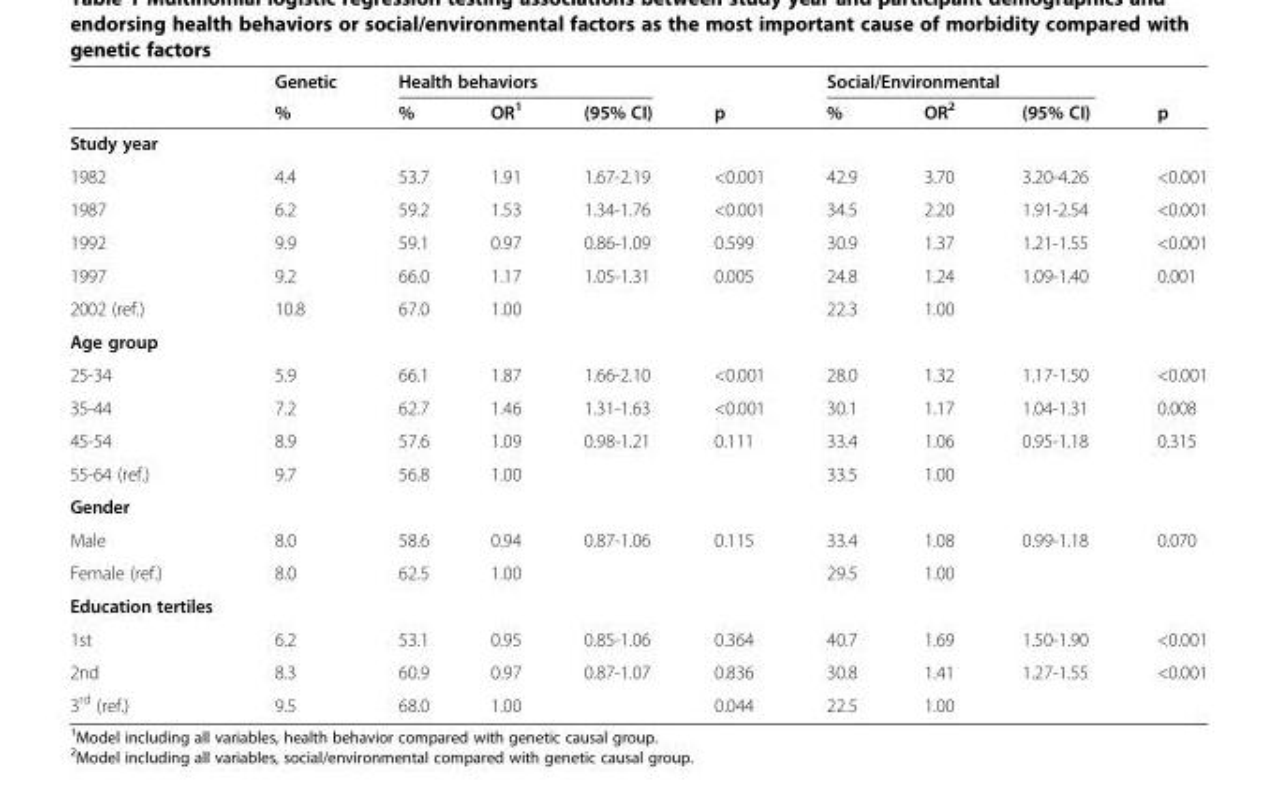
<table><thead><tr><td rowspan="2"></td><td rowspan="2">Genetic %</td><td colspan="3">Health behaviors</td><td rowspan="2">p</td><td colspan="3">Social/Environmental</td><td rowspan="2">p</td></tr><tr><td>%</td><td>OR<sup>1</sup></td><td>(95% CI)</td><td>%</td><td>OR<sup>2</sup></td><td>(95% CI)</td></tr></thead><tbody><tr><td colspan="10">Study year</td></tr><tr><td>1982</td><td>4.4</td><td>53.7</td><td>1.91</td><td>1.67-2.19</td><td>&lt;0.001</td><td>42.9</td><td>3.70</td><td>3.20-4.26</td><td>&lt;0.001</td></tr><tr><td>1987</td><td>6.2</td><td>59.2</td><td>1.53</td><td>1.34-1.76</td><td>&lt;0.001</td><td>34.5</td><td>2.20</td><td>1.91-2.54</td><td>&lt;0.001</td></tr><tr><td>1992</td><td>9.9</td><td>59.1</td><td>0.97</td><td>0.86-1.09</td><td>0.599</td><td>30.9</td><td>1.37</td><td>1.21-1.55</td><td>&lt;0.001</td></tr><tr><td>1997</td><td>9.2</td><td>66.0</td><td>1.17</td><td>1.05-1.31</td><td>0.005</td><td>24.8</td><td>1.24</td><td>1.09-1.40</td><td>0.001</td></tr><tr><td>2002 (ref.)</td><td>10.8</td><td>67.0</td><td>1.00</td><td></td><td></td><td>22.3</td><td>1.00</td><td></td><td></td></tr><tr><td colspan="10">Age group</td></tr><tr><td>25-34</td><td>5.9</td><td>66.1</td><td>1.87</td><td>1.66-2.10</td><td>&lt;0.001</td><td>28.0</td><td>1.32</td><td>1.17-1.50</td><td>&lt;0.001</td></tr><tr><td>35-44</td><td>7.2</td><td>62.7</td><td>1.46</td><td>1.31-1.63</td><td>&lt;0.001</td><td>30.1</td><td>1.17</td><td>1.04-1.31</td><td>0.008</td></tr><tr><td>45-54</td><td>8.9</td><td>57.6</td><td>1.09</td><td>0.98-1.21</td><td>0.111</td><td>33.4</td><td>1.06</td><td>0.95-1.18</td><td>0.315</td></tr><tr><td>55-64 (ref.)</td><td>9.7</td><td>56.8</td><td>1.00</td><td></td><td></td><td>33.5</td><td>1.00</td><td></td><td></td></tr><tr><td colspan="10">Gender</td></tr><tr><td>Male</td><td>8.0</td><td>58.6</td><td>0.94</td><td>0.87-1.06</td><td>0.115</td><td>33.4</td><td>1.08</td><td>0.99-1.18</td><td>0.070</td></tr><tr><td>Female (ref.)</td><td>8.0</td><td>62.5</td><td>1.00</td><td></td><td></td><td>29.5</td><td>1.00</td><td></td><td></td></tr><tr><td colspan="10">Education tertiles</td></tr><tr><td>1st</td><td>6.2</td><td>53.1</td><td>0.95</td><td>0.85-1.06</td><td>0.364</td><td>40.7</td><td>1.69</td><td>1.50-1.90</td><td>&lt;0.001</td></tr><tr><td>2nd</td><td>8.3</td><td>60.9</td><td>0.97</td><td>0.87-1.07</td><td>0.836</td><td>30.8</td><td>1.41</td><td>1.27-1.55</td><td>&lt;0.001</td></tr><tr><td>3<sup>rd</sup> (ref.)</td><td>9.5</td><td>68.0</td><td>1.00</td><td></td><td>0.044</td><td>22.5</td><td>1.00</td><td></td><td></td></tr></tbody></table>